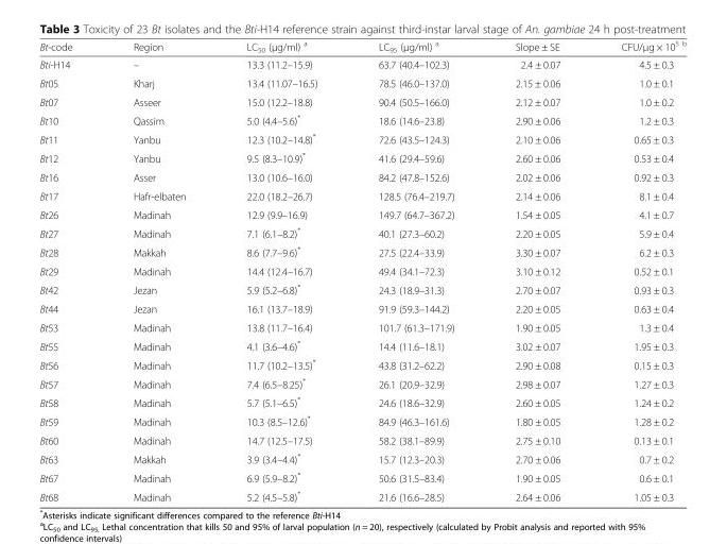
<table><thead><tr><td>Bt-code</td><td>Region</td><td>LC<sub>50</sub> (μg/ml) <sup>a</sup></td><td>LC<sub>95</sub> (μg/ml) <sup>a</sup></td><td>Slope ± SE</td><td>CFU/μg × 10<sup>5 b</sup></td></tr></thead><tbody><tr><td>Bti-H14</td><td>–</td><td>13.3 (11.2–15.9)</td><td>63.7 (40.4–102.3)</td><td>2.4 ± 0.07</td><td>4.5 ± 0.3</td></tr><tr><td>Bt05</td><td>Kharj</td><td>13.4 (11.07–16.5)</td><td>78.5 (46.0–137.0)</td><td>2.15 ± 0.06</td><td>1.0 ± 0.1</td></tr><tr><td>Bt07</td><td>Asseer</td><td>15.0 (12.2–18.8)</td><td>90.4 (50.5–166.0)</td><td>2.12 ± 0.07</td><td>1.0 ± 0.2</td></tr><tr><td>Bt10</td><td>Qassim</td><td>5.0 (4.4–5.6)*</td><td>18.6 (14.6–23.8)</td><td>2.90 ± 0.06</td><td>1.2 ± 0.3</td></tr><tr><td>Bt11</td><td>Yanbu</td><td>12.3 (10.2–14.8)*</td><td>72.6 (43.5–124.3)</td><td>2.10 ± 0.06</td><td>0.65 ± 0.3</td></tr><tr><td>Bt12</td><td>Yanbu</td><td>9.5 (8.3–10.9)*</td><td>41.6 (29.4–59.6)</td><td>2.60 ± 0.06</td><td>0.53 ± 0.4</td></tr><tr><td>Bt16</td><td>Asser</td><td>13.0 (10.6–16.0)</td><td>84.2 (47.8–152.6)</td><td>2.02 ± 0.06</td><td>0.92 ± 0.3</td></tr><tr><td>Bt17</td><td>Hafr-elbaten</td><td>22.0 (18.2–26.7)</td><td>128.5 (76.4–219.7)</td><td>2.14 ± 0.06</td><td>8.1 ± 0.4</td></tr><tr><td>Bt26</td><td>Madinah</td><td>12.9 (9.9–16.9)</td><td>149.7 (64.7–367.2)</td><td>1.54 ± 0.05</td><td>4.1 ± 0.7</td></tr><tr><td>Bt27</td><td>Madinah</td><td>7.1 (6.1–8.2)*</td><td>40.1 (27.3–60.2)</td><td>2.20 ± 0.05</td><td>5.9 ± 0.4</td></tr><tr><td>Bt28</td><td>Makkah</td><td>8.6 (7.7–9.6)*</td><td>27.5 (22.4–33.9)</td><td>3.30 ± 0.07</td><td>6.2 ± 0.3</td></tr><tr><td>Bt29</td><td>Madinah</td><td>14.4 (12.4–16.7)</td><td>49.4 (34.1–72.3)</td><td>3.10 ± 0.12</td><td>0.52 ± 0.1</td></tr><tr><td>Bt42</td><td>Jezan</td><td>5.9 (5.2–6.8)*</td><td>24.3 (18.9–31.3)</td><td>2.70 ± 0.07</td><td>0.93 ± 0.3</td></tr><tr><td>Bt44</td><td>Jezan</td><td>16.1 (13.7–18.9)</td><td>91.9 (59.3–144.2)</td><td>2.20 ± 0.05</td><td>0.63 ± 0.4</td></tr><tr><td>Bt53</td><td>Madinah</td><td>13.8 (11.7–16.4)</td><td>101.7 (61.3–171.9)</td><td>1.90 ± 0.05</td><td>1.3 ± 0.4</td></tr><tr><td>Bt55</td><td>Madinah</td><td>4.1 (3.6–4.6)*</td><td>14.4 (11.6–18.1)</td><td>3.02 ± 0.07</td><td>1.95 ± 0.3</td></tr><tr><td>Bt56</td><td>Madinah</td><td>11.7 (10.2–13.5)*</td><td>43.8 (31.2–62.2)</td><td>2.90 ± 0.08</td><td>0.15 ± 0.3</td></tr><tr><td>Bt57</td><td>Madinah</td><td>7.4 (6.5–8.25)*</td><td>26.1 (20.9–32.9)</td><td>2.98 ± 0.07</td><td>1.27 ± 0.3</td></tr><tr><td>Bt58</td><td>Madinah</td><td>5.7 (5.1–6.5)*</td><td>24.6 (18.6–32.9)</td><td>2.60 ± 0.05</td><td>1.24 ± 0.2</td></tr><tr><td>Bt59</td><td>Madinah</td><td>10.3 (8.5–12.6)*</td><td>84.9 (46.3–161.6)</td><td>1.80 ± 0.05</td><td>1.28 ± 0.2</td></tr><tr><td>Bt60</td><td>Madinah</td><td>14.7 (12.5–17.5)</td><td>58.2 (38.1–89.9)</td><td>2.75 ± 0.10</td><td>0.13 ± 0.1</td></tr><tr><td>Bt63</td><td>Makkah</td><td>3.9 (3.4–4.4)*</td><td>15.7 (12.3–20.3)</td><td>2.70 ± 0.06</td><td>0.7 ± 0.2</td></tr><tr><td>Bt67</td><td>Madinah</td><td>6.9 (5.9–8.2)*</td><td>50.6 (31.5–83.4)</td><td>1.90 ± 0.05</td><td>0.6 ± 0.1</td></tr><tr><td>Bt68</td><td>Madinah</td><td>5.2 (4.5–5.8)*</td><td>21.6 (16.6–28.5)</td><td>2.64 ± 0.06</td><td>1.05 ± 0.3</td></tr></tbody></table>